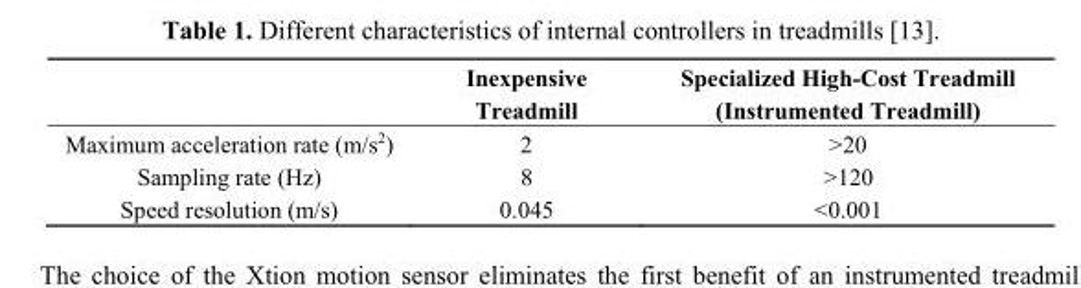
<table><thead><tr><td></td><td>Inexpensive Treadmill</td><td>Specialized High-Cost Treadmill (Instrumented Treadmill)</td></tr></thead><tbody><tr><td>Maximum acceleration rate (m/s<sup>2</sup>)</td><td>2</td><td>&gt;20</td></tr><tr><td>Sampling rate (Hz)</td><td>8</td><td>&gt;120</td></tr><tr><td>Speed resolution (m/s)</td><td>0.045</td><td>&lt;0.001</td></tr></tbody></table>